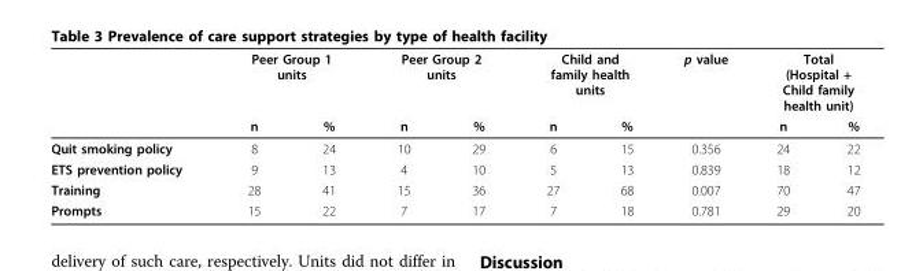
<table><thead><tr><td rowspan="2"></td><td colspan="2">Peer Group 1 units</td><td colspan="2">Peer Group 2 units</td><td colspan="2">Child and family health units</td><td rowspan="2">p value</td><td colspan="2">Total (Hospital + Child family health unit)</td></tr><tr><td>n</td><td>%</td><td>n</td><td>%</td><td>n</td><td>%</td><td>n</td><td>%</td></tr></thead><tbody><tr><td>Quit smoking policy</td><td>8</td><td>24</td><td>10</td><td>29</td><td>6</td><td>15</td><td>0.356</td><td>24</td><td>22</td></tr><tr><td>ETS prevention policy</td><td>9</td><td>13</td><td>4</td><td>10</td><td>5</td><td>13</td><td>0.839</td><td>18</td><td>12</td></tr><tr><td>Training</td><td>28</td><td>41</td><td>15</td><td>36</td><td>27</td><td>68</td><td>0.007</td><td>70</td><td>47</td></tr><tr><td>Prompts</td><td>15</td><td>22</td><td>7</td><td>17</td><td>7</td><td>18</td><td>0.781</td><td>29</td><td>20</td></tr></tbody></table>